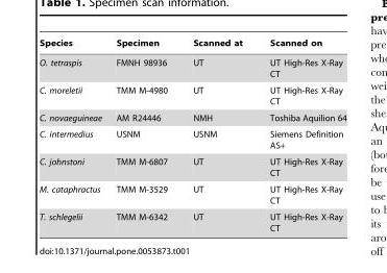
<table><thead><tr><td>Species</td><td>Specimen</td><td>Scanned at</td><td>Scanned on</td></tr></thead><tbody><tr><td>O. tetraspis</td><td>FMNH 98936</td><td>UT</td><td>UT High-Res X-Ray CT</td></tr><tr><td>C. moreletii</td><td>TMM M-4980</td><td>UT</td><td>UT High-Res X-Ray CT</td></tr><tr><td>C. novaeguineae</td><td>AM R24446</td><td>NMH</td><td>Toshiba Aquilion 64</td></tr><tr><td>C. intermedius</td><td>USNM</td><td>USNM</td><td>Siemens Definition AS+</td></tr><tr><td>C. johnstoni</td><td>TMM M-6807</td><td>UT</td><td>UT High-Res X-Ray CT</td></tr><tr><td>M. cataphractus</td><td>TMM M-3529</td><td>UT</td><td>UT High-Res X-Ray CT</td></tr><tr><td>T. schlegelii</td><td>TMM M-6342</td><td>UT</td><td>UT High-Res X-Ray CT</td></tr></tbody></table>